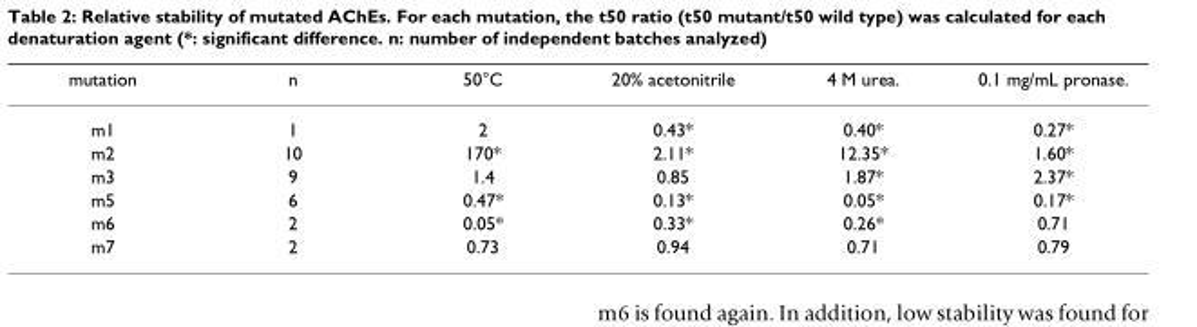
<table><thead><tr><td>mutation</td><td>n</td><td>50°C</td><td>20% acetonitrile</td><td>4 M urea.</td><td>0.1 mg/mL pronase.</td></tr></thead><tbody><tr><td>m1</td><td>1</td><td>2</td><td>0.43*</td><td>0.40*</td><td>0.27*</td></tr><tr><td>m2</td><td>10</td><td>170*</td><td>2.11*</td><td>12.35*</td><td>1.60*</td></tr><tr><td>m3</td><td>9</td><td>1.4</td><td>0.85</td><td>1.87*</td><td>2.37*</td></tr><tr><td>m5</td><td>6</td><td>0.47*</td><td>0.13*</td><td>0.05*</td><td>0.17*</td></tr><tr><td>m6</td><td>2</td><td>0.05*</td><td>0.33*</td><td>0.26*</td><td>0.71</td></tr><tr><td>m7</td><td>2</td><td>0.73</td><td>0.94</td><td>0.71</td><td>0.79</td></tr></tbody></table>